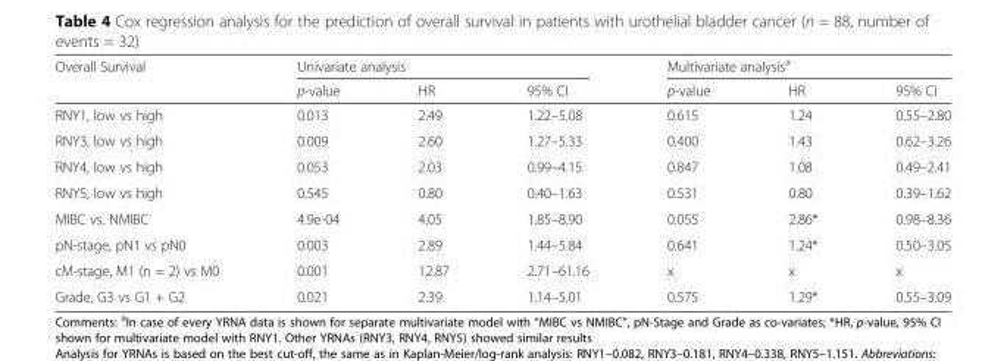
<table><thead><tr><td rowspan="2">Overall Survival</td><td colspan="3">Univariate analysis</td><td colspan="3">Multivariate analysis<sup>a</sup></td></tr><tr><td>p-value</td><td>HR</td><td>95% CI</td><td>p-value</td><td>HR</td><td>95% CI</td></tr></thead><tbody><tr><td>RNY1, low vs high</td><td>0.013</td><td>2.49</td><td>1.22–5.08</td><td>0.615</td><td>1.24</td><td>0.55–2.80</td></tr><tr><td>RNY3, low vs high</td><td>0.009</td><td>2.60</td><td>1.27–5.33</td><td>0.400</td><td>1.43</td><td>0.62–3.26</td></tr><tr><td>RNY4, low vs high</td><td>0.053</td><td>2.03</td><td>0.99–4.15</td><td>0.847</td><td>1.08</td><td>0.49–2.41</td></tr><tr><td>RNY5, low vs high</td><td>0.545</td><td>0.80</td><td>0.40–1.63</td><td>0.531</td><td>0.80</td><td>0.39–1.62</td></tr><tr><td>MIBC vs. NMIBC</td><td>4.9e-04</td><td>4.05</td><td>1.85–8.90</td><td>0.055</td><td>2.86*</td><td>0.98–8.36</td></tr><tr><td>pN-stage, pN1 vs pN0</td><td>0.003</td><td>2.89</td><td>1.44–5.84</td><td>0.641</td><td>1.24*</td><td>0.50–3.05</td></tr><tr><td>cM-stage, M1 (n = 2) vs M0</td><td>0.001</td><td>12.87</td><td>2.71–61.16</td><td>x</td><td>x</td><td>x</td></tr><tr><td>Grade, G3 vs G1 + G2</td><td>0.021</td><td>2.39</td><td>1.14–5.01</td><td>0.575</td><td>1.29*</td><td>0.55–3.09</td></tr></tbody></table>